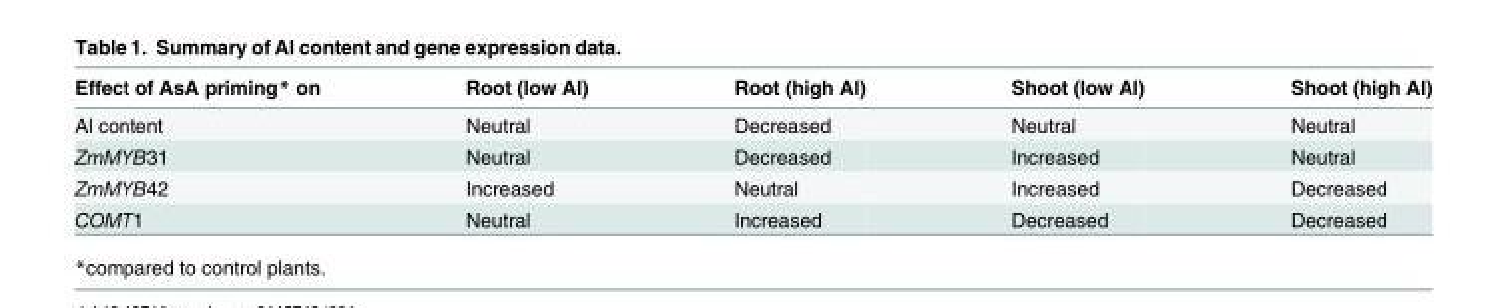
<table><thead><tr><td>Effect of AsA priming* on</td><td>Root (low Al)</td><td>Root (high Al)</td><td>Shoot (low Al)</td><td>Shoot (high Al)</td></tr></thead><tbody><tr><td>Al content</td><td>Neutral</td><td>Decreased</td><td>Neutral</td><td>Neutral</td></tr><tr><td>ZmMYB31</td><td>Neutral</td><td>Decreased</td><td>Increased</td><td>Neutral</td></tr><tr><td>ZmMYB42</td><td>Increased</td><td>Neutral</td><td>Increased</td><td>Decreased</td></tr><tr><td>COMT1</td><td>Neutral</td><td>Increased</td><td>Decreased</td><td>Decreased</td></tr></tbody></table>